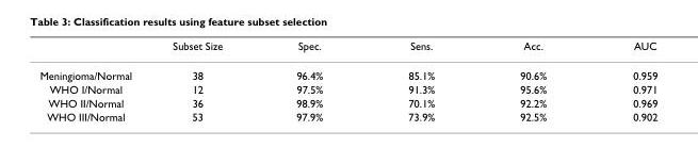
<table><thead><tr><td></td><td>Subset Size</td><td>Spec.</td><td>Sens.</td><td>Acc.</td><td>AUC</td></tr></thead><tbody><tr><td>Meningioma/Normal</td><td>38</td><td>96.4%</td><td>85.1%</td><td>90.6%</td><td>0.959</td></tr><tr><td>WHO I/Normal</td><td>12</td><td>97.5%</td><td>91.3%</td><td>95.6%</td><td>0.971</td></tr><tr><td>WHO II/Normal</td><td>36</td><td>98.9%</td><td>70.1%</td><td>92.2%</td><td>0.969</td></tr><tr><td>WHO III/Normal</td><td>53</td><td>97.9%</td><td>73.9%</td><td>92.5%</td><td>0.902</td></tr></tbody></table>